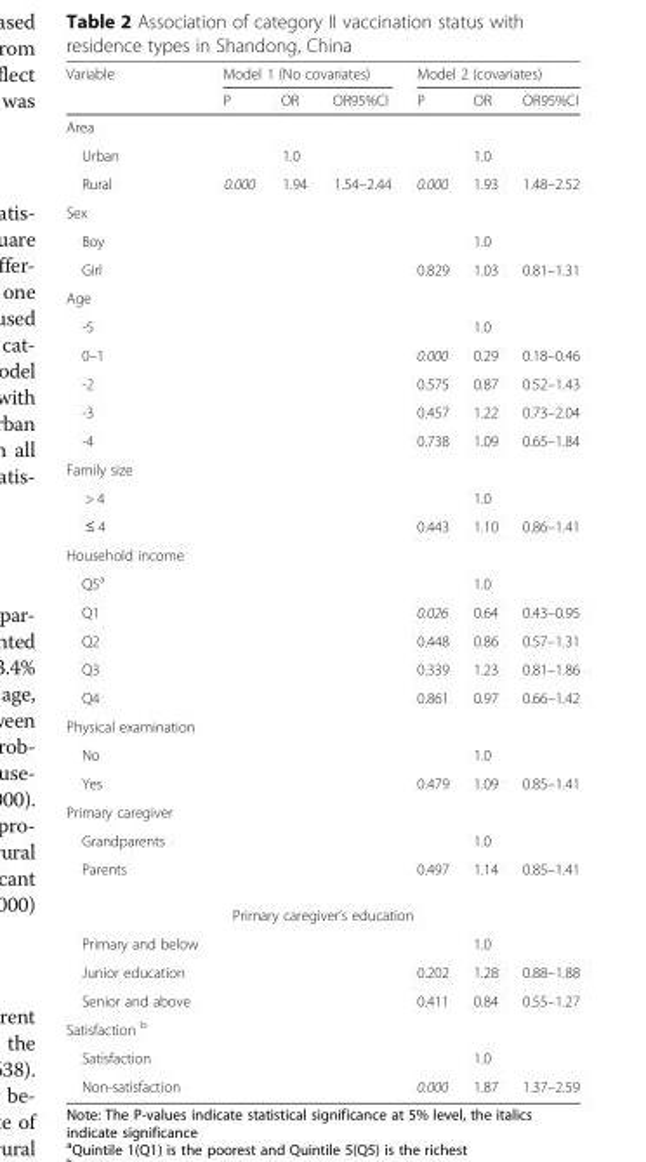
<table><thead><tr><td rowspan="2">Variable</td><td colspan="3">Model 1 (No covariates)</td><td colspan="3">Model 2 (covariates)</td></tr><tr><td>Ρ</td><td>OR</td><td>OR95%CI</td><td>P</td><td>OR</td><td>OR95%CI</td></tr></thead><tbody><tr><td colspan="7">Area</td></tr><tr><td>Urban</td><td></td><td>1.0</td><td></td><td></td><td>1.0</td><td></td></tr><tr><td>Rural</td><td>0.000</td><td>1.94</td><td>1.54–2.44</td><td>0.000</td><td>1.93</td><td>1.48–2.52</td></tr><tr><td colspan="7">Sex</td></tr><tr><td>Boy</td><td></td><td></td><td></td><td></td><td>1.0</td><td></td></tr><tr><td>Girl</td><td></td><td></td><td></td><td>0.829</td><td>1.03</td><td>0.81–1.31</td></tr><tr><td colspan="7">Age</td></tr><tr><td>-5</td><td></td><td></td><td></td><td></td><td>1.0</td><td></td></tr><tr><td>0–1</td><td></td><td></td><td></td><td>0.000</td><td>0.29</td><td>0.18–0.46</td></tr><tr><td>-2</td><td></td><td></td><td></td><td>0.575</td><td>0.87</td><td>0.52–1.43</td></tr><tr><td>-3</td><td></td><td></td><td></td><td>0.457</td><td>1.22</td><td>0.73–2.04</td></tr><tr><td>-4</td><td></td><td></td><td></td><td>0.738</td><td>1.09</td><td>0.65–1.84</td></tr><tr><td colspan="7">Family size</td></tr><tr><td>&gt; 4</td><td></td><td></td><td></td><td></td><td>1.0</td><td></td></tr><tr><td>≤ 4</td><td></td><td></td><td></td><td>0.443</td><td>1.10</td><td>0.86–1.41</td></tr><tr><td colspan="7">Household income</td></tr><tr><td>Q5<sup>a</sup></td><td></td><td></td><td></td><td></td><td>1.0</td><td></td></tr><tr><td>Q1</td><td></td><td></td><td></td><td>0.026</td><td>0.64</td><td>0.43–0.95</td></tr><tr><td>Q2</td><td></td><td></td><td></td><td>0.448</td><td>0.86</td><td>0.57–1.31</td></tr><tr><td>Q3</td><td></td><td></td><td></td><td>0.339</td><td>1.23</td><td>0.81–1.86</td></tr><tr><td>Q4</td><td></td><td></td><td></td><td>0.861</td><td>0.97</td><td>0.66–1.42</td></tr><tr><td colspan="7">Physical examination</td></tr><tr><td>No</td><td></td><td></td><td></td><td></td><td>1.0</td><td></td></tr><tr><td>Yes</td><td></td><td></td><td></td><td>0.479</td><td>1.09</td><td>0.85–1.41</td></tr><tr><td colspan="7">Primary caregiver</td></tr><tr><td>Grandparents</td><td></td><td></td><td></td><td></td><td>1.0</td><td></td></tr><tr><td>Parents</td><td></td><td></td><td></td><td>0.497</td><td>1.14</td><td>0.85–1.41</td></tr><tr><td colspan="7">Primary caregiver’s education</td></tr><tr><td>Primary and below</td><td></td><td></td><td></td><td></td><td>1.0</td><td></td></tr><tr><td>Junior education</td><td></td><td></td><td></td><td>0.202</td><td>1.28</td><td>0.88–1.88</td></tr><tr><td>Senior and above</td><td></td><td></td><td></td><td>0.411</td><td>0.84</td><td>0.55–1.27</td></tr><tr><td colspan="7">Satisfaction <sup>b</sup></td></tr><tr><td>Satisfaction</td><td></td><td></td><td></td><td></td><td>1.0</td><td></td></tr><tr><td>Non-satisfaction</td><td></td><td></td><td></td><td>0.000</td><td>1.87</td><td>1.37–2.59</td></tr></tbody></table>